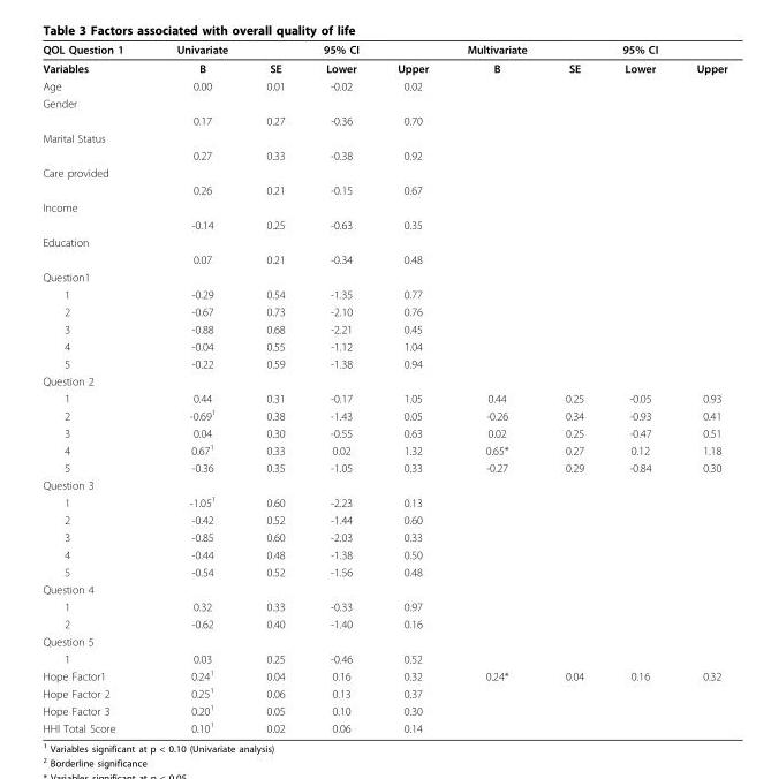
<table><thead><tr><td>QOL Question 1</td><td>Univariate</td><td></td><td>95% CI</td><td></td><td>Multivariate</td><td></td><td>95% CI</td><td></td></tr></thead><tbody><tr><td>Variables</td><td>B</td><td>SE</td><td>Lower</td><td>Upper</td><td>B</td><td>SE</td><td>Lower</td><td>Upper</td></tr><tr><td>Age</td><td>0.00</td><td>0.01</td><td>-0.02</td><td>0.02</td><td></td><td></td><td></td><td></td></tr><tr><td colspan="9">Gender</td></tr><tr><td></td><td>0.17</td><td>0.27</td><td>-0.36</td><td>0.70</td><td></td><td></td><td></td><td></td></tr><tr><td colspan="9">Marital Status</td></tr><tr><td></td><td>0.27</td><td>0.33</td><td>-0.38</td><td>0.92</td><td></td><td></td><td></td><td></td></tr><tr><td colspan="9">Care provided</td></tr><tr><td></td><td>0.26</td><td>0.21</td><td>-0.15</td><td>0.67</td><td></td><td></td><td></td><td></td></tr><tr><td colspan="9">Income</td></tr><tr><td></td><td>-0.14</td><td>0.25</td><td>-0.63</td><td>0.35</td><td></td><td></td><td></td><td></td></tr><tr><td colspan="9">Education</td></tr><tr><td></td><td>0.07</td><td>0.21</td><td>-0.34</td><td>0.48</td><td></td><td></td><td></td><td></td></tr><tr><td colspan="9">Question1</td></tr><tr><td>1</td><td>-0.29</td><td>0.54</td><td>-1.35</td><td>0.77</td><td></td><td></td><td></td><td></td></tr><tr><td>2</td><td>-0.67</td><td>0.73</td><td>-2.10</td><td>0.76</td><td></td><td></td><td></td><td></td></tr><tr><td>3</td><td>-0.88</td><td>0.68</td><td>-2.21</td><td>0.45</td><td></td><td></td><td></td><td></td></tr><tr><td>4</td><td>-0.04</td><td>0.55</td><td>-1.12</td><td>1.04</td><td></td><td></td><td></td><td></td></tr><tr><td>5</td><td>-0.22</td><td>0.59</td><td>-1.38</td><td>0.94</td><td></td><td></td><td></td><td></td></tr><tr><td colspan="9">Question 2</td></tr><tr><td>1</td><td>0.44</td><td>0.31</td><td>-0.17</td><td>1.05</td><td>0.44</td><td>0.25</td><td>-0.05</td><td>0.93</td></tr><tr><td>2</td><td>-0.69<sup>1</sup></td><td>0.38</td><td>-1.43</td><td>0.05</td><td>-0.26</td><td>0.34</td><td>-0.93</td><td>0.41</td></tr><tr><td>3</td><td>0.04</td><td>0.30</td><td>-0.55</td><td>0.63</td><td>0.02</td><td>0.25</td><td>-0.47</td><td>0.51</td></tr><tr><td>4</td><td>0.67<sup>1</sup></td><td>0.33</td><td>0.02</td><td>1.32</td><td>0.65*</td><td>0.27</td><td>0.12</td><td>1.18</td></tr><tr><td>5</td><td>-0.36</td><td>0.35</td><td>-1.05</td><td>0.33</td><td>-0.27</td><td>0.29</td><td>-0.84</td><td>0.30</td></tr><tr><td colspan="9">Question 3</td></tr><tr><td>1</td><td>-1.05<sup>1</sup></td><td>0.60</td><td>-2.23</td><td>0.13</td><td></td><td></td><td></td><td></td></tr><tr><td>2</td><td>-0.42</td><td>0.52</td><td>-1.44</td><td>0.60</td><td></td><td></td><td></td><td></td></tr><tr><td>3</td><td>-0.85</td><td>0.60</td><td>-2.03</td><td>0.33</td><td></td><td></td><td></td><td></td></tr><tr><td>4</td><td>-0.44</td><td>0.48</td><td>-1.38</td><td>0.50</td><td></td><td></td><td></td><td></td></tr><tr><td>5</td><td>-0.54</td><td>0.52</td><td>-1.56</td><td>0.48</td><td></td><td></td><td></td><td></td></tr><tr><td colspan="9">Question 4</td></tr><tr><td>1</td><td>0.32</td><td>0.33</td><td>-0.33</td><td>0.97</td><td></td><td></td><td></td><td></td></tr><tr><td>2</td><td>-0.62</td><td>0.40</td><td>-1.40</td><td>0.16</td><td></td><td></td><td></td><td></td></tr><tr><td colspan="9">Question 5</td></tr><tr><td>1</td><td>0.03</td><td>0.25</td><td>-0.46</td><td>0.52</td><td></td><td></td><td></td><td></td></tr><tr><td>Hope Factor1</td><td>0.24<sup>1</sup></td><td>0.04</td><td>0.16</td><td>0.32</td><td>0.24*</td><td>0.04</td><td>0.16</td><td>0.32</td></tr><tr><td>Hope Factor 2</td><td>0.25<sup>1</sup></td><td>0.06</td><td>0.13</td><td>0.37</td><td></td><td></td><td></td><td></td></tr><tr><td>Hope Factor 3</td><td>0.20<sup>1</sup></td><td>0.05</td><td>0.10</td><td>0.30</td><td></td><td></td><td></td><td></td></tr><tr><td>HHI Total Score</td><td>0.10<sup>1</sup></td><td>0.02</td><td>0.06</td><td>0.14</td><td></td><td></td><td></td><td></td></tr></tbody></table>